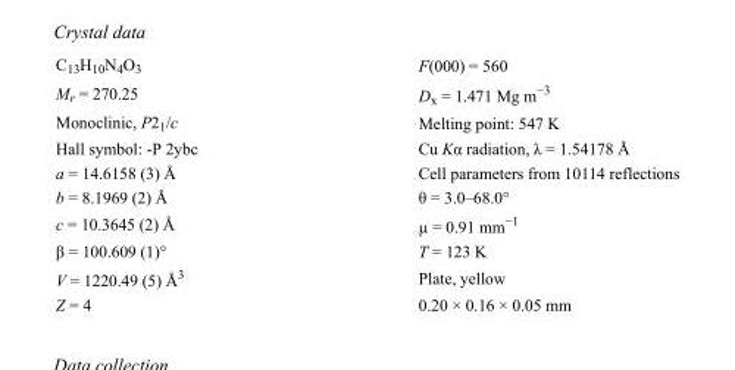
<table><tbody><tr><td>C<sub>13</sub>H<sub>10</sub>N<sub>4</sub>O<sub>3</sub></td><td>F(000) = 560</td></tr><tr><td>M<sub>r</sub> = 270.25</td><td>D<sub>x</sub> = 1.471 Mg m<sup>−3</sup></td></tr><tr><td>Monoclinic, P2<sub>1</sub>/c</td><td>Melting point: 547 K</td></tr><tr><td>Hall symbol: -P 2ybc</td><td>Cu Kα radiation, λ = 1.54178 Å</td></tr><tr><td>a = 14.6158 (3) Å</td><td>Cell parameters from 10114 reflections</td></tr><tr><td>b = 8.1969 (2) Å</td><td>θ = 3.0–68.0°</td></tr><tr><td>c = 10.3645 (2) Å</td><td>µ = 0.91 mm<sup>−1</sup></td></tr><tr><td>β = 100.609 (1)°</td><td>T = 123 K</td></tr><tr><td>V = 1220.49 (5) Å<sup>3</sup></td><td>Plate, yellow</td></tr><tr><td>Z = 4</td><td>0.20 × 0.16 × 0.05 mm</td></tr></tbody></table>